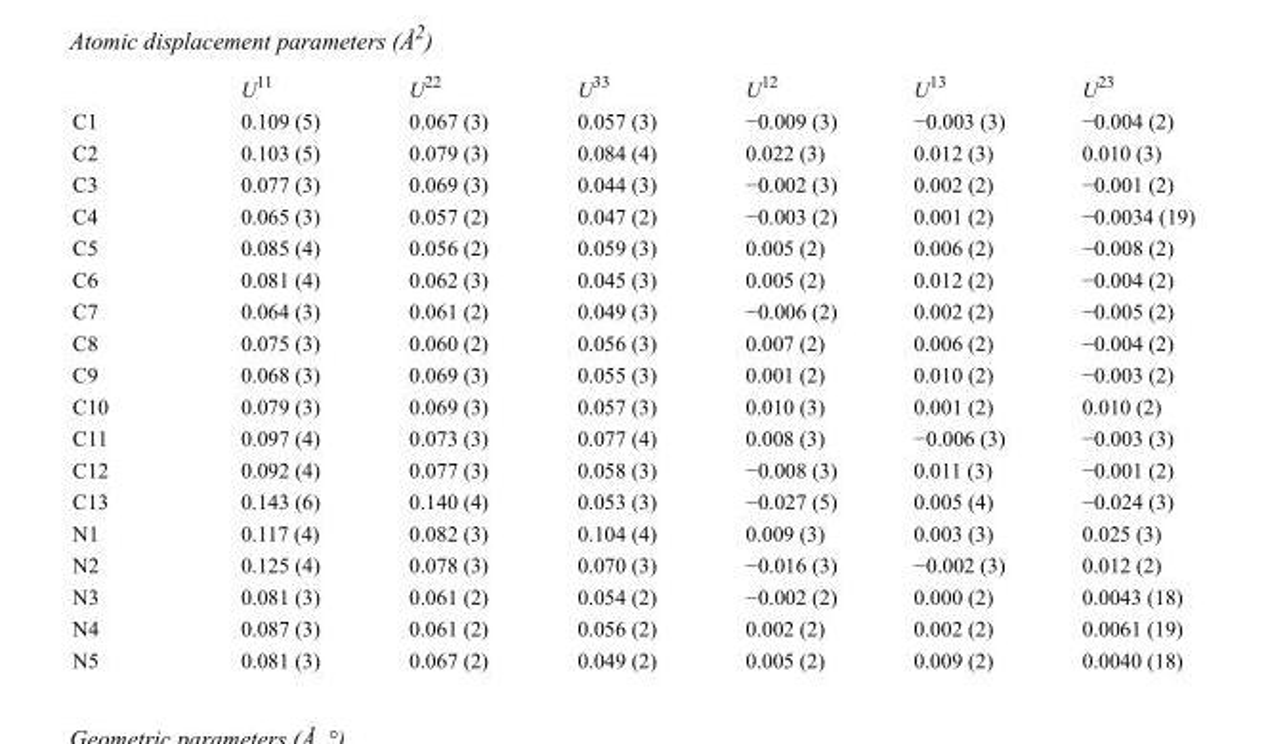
<table><thead><tr><td></td><td>U<sup>11</sup></td><td>U<sup>22</sup></td><td>U<sup>33</sup></td><td>U<sup>12</sup></td><td>U<sup>13</sup></td><td>U<sup>23</sup></td></tr></thead><tbody><tr><td>C1</td><td>0.109 (5)</td><td>0.067 (3)</td><td>0.057 (3)</td><td>−0.009 (3)</td><td>−0.003 (3)</td><td>−0.004 (2)</td></tr><tr><td>C2</td><td>0.103 (5)</td><td>0.079 (3)</td><td>0.084 (4)</td><td>0.022 (3)</td><td>0.012 (3)</td><td>0.010 (3)</td></tr><tr><td>C3</td><td>0.077 (3)</td><td>0.069 (3)</td><td>0.044 (3)</td><td>−0.002 (3)</td><td>0.002 (2)</td><td>−0.001 (2)</td></tr><tr><td>C4</td><td>0.065 (3)</td><td>0.057 (2)</td><td>0.047 (2)</td><td>−0.003 (2)</td><td>0.001 (2)</td><td>−0.0034 (19)</td></tr><tr><td>C5</td><td>0.085 (4)</td><td>0.056 (2)</td><td>0.059 (3)</td><td>0.005 (2)</td><td>0.006 (2)</td><td>−0.008 (2)</td></tr><tr><td>C6</td><td>0.081 (4)</td><td>0.062 (3)</td><td>0.045 (3)</td><td>0.005 (2)</td><td>0.012 (2)</td><td>−0.004 (2)</td></tr><tr><td>C7</td><td>0.064 (3)</td><td>0.061 (2)</td><td>0.049 (3)</td><td>−0.006 (2)</td><td>0.002 (2)</td><td>−0.005 (2)</td></tr><tr><td>C8</td><td>0.075 (3)</td><td>0.060 (2)</td><td>0.056 (3)</td><td>0.007 (2)</td><td>0.006 (2)</td><td>−0.004 (2)</td></tr><tr><td>C9</td><td>0.068 (3)</td><td>0.069 (3)</td><td>0.055 (3)</td><td>0.001 (2)</td><td>0.010 (2)</td><td>−0.003 (2)</td></tr><tr><td>C10</td><td>0.079 (3)</td><td>0.069 (3)</td><td>0.057 (3)</td><td>0.010 (3)</td><td>0.001 (2)</td><td>0.010 (2)</td></tr><tr><td>C11</td><td>0.097 (4)</td><td>0.073 (3)</td><td>0.077 (4)</td><td>0.008 (3)</td><td>−0.006 (3)</td><td>−0.003 (3)</td></tr><tr><td>C12</td><td>0.092 (4)</td><td>0.077 (3)</td><td>0.058 (3)</td><td>−0.008 (3)</td><td>0.011 (3)</td><td>−0.001 (2)</td></tr><tr><td>C13</td><td>0.143 (6)</td><td>0.140 (4)</td><td>0.053 (3)</td><td>−0.027 (5)</td><td>0.005 (4)</td><td>−0.024 (3)</td></tr><tr><td>N1</td><td>0.117 (4)</td><td>0.082 (3)</td><td>0.104 (4)</td><td>0.009 (3)</td><td>0.003 (3)</td><td>0.025 (3)</td></tr><tr><td>N2</td><td>0.125 (4)</td><td>0.078 (3)</td><td>0.070 (3)</td><td>−0.016 (3)</td><td>−0.002 (3)</td><td>0.012 (2)</td></tr><tr><td>N3</td><td>0.081 (3)</td><td>0.061 (2)</td><td>0.054 (2)</td><td>−0.002 (2)</td><td>0.000 (2)</td><td>0.0043 (18)</td></tr><tr><td>N4</td><td>0.087 (3)</td><td>0.061 (2)</td><td>0.056 (2)</td><td>0.002 (2)</td><td>0.002 (2)</td><td>0.0061 (19)</td></tr><tr><td>N5</td><td>0.081 (3)</td><td>0.067 (2)</td><td>0.049 (2)</td><td>0.005 (2)</td><td>0.009 (2)</td><td>0.0040 (18)</td></tr></tbody></table>